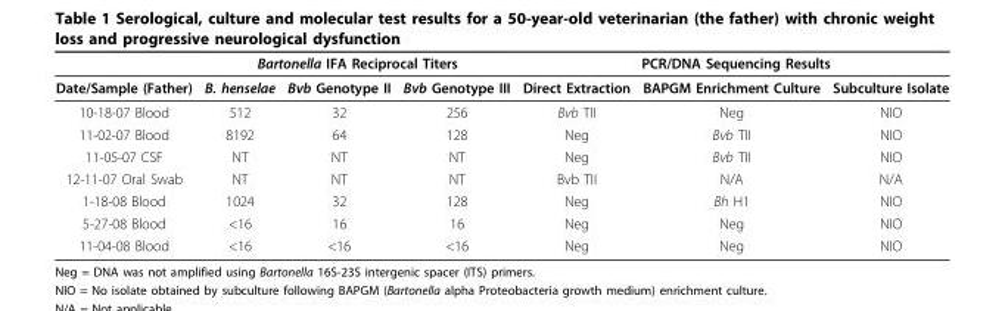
<table><thead><tr><td rowspan="2">Date/Sample (Father)</td><td colspan="3">Bartonella IFA Reciprocal Titers</td><td colspan="3">PCR/DNA Sequencing Results</td></tr><tr><td>B. henselae</td><td>Bvb Genotype II</td><td>Bvb Genotype III</td><td>Direct Extraction</td><td>BAPGM Enrichment Culture</td><td>Subculture Isolate</td></tr></thead><tbody><tr><td>10-18-07 Blood</td><td>512</td><td>32</td><td>256</td><td>Bvb TII</td><td>Neg</td><td>NIO</td></tr><tr><td>11-02-07 Blood</td><td>8192</td><td>64</td><td>128</td><td>Neg</td><td>Bvb TII</td><td>NIO</td></tr><tr><td>11-05-07 CSF</td><td>NT</td><td>NT</td><td>NT</td><td>Neg</td><td>Bvb TII</td><td>NIO</td></tr><tr><td>12-11-07 Oral Swab</td><td>NT</td><td>NT</td><td>NT</td><td>Bvb TII</td><td>N/A</td><td>N/A</td></tr><tr><td>1-18-08 Blood</td><td>1024</td><td>32</td><td>128</td><td>Neg</td><td>Bh H1</td><td>NIO</td></tr><tr><td>5-27-08 Blood</td><td>&lt;16</td><td>16</td><td>16</td><td>Neg</td><td>Neg</td><td>NIO</td></tr><tr><td>11-04-08 Blood</td><td>&lt;16</td><td>&lt;16</td><td>&lt;16</td><td>Neg</td><td>Neg</td><td>NIO</td></tr></tbody></table>